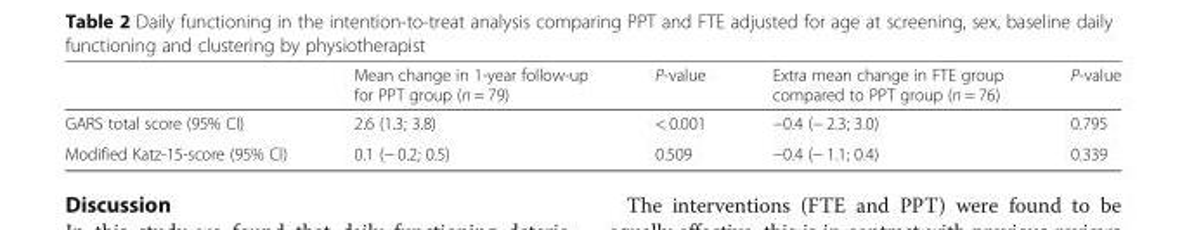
<table><thead><tr><td></td><td>Mean change in 1-year follow-up for PPT group (n = 79)</td><td>P-value</td><td>Extra mean change in FTE group compared to PPT group (n = 76)</td><td>P-value</td></tr></thead><tbody><tr><td>GARS total score (95% CI)</td><td>2.6 (1.3; 3.8)</td><td>&lt; 0.001</td><td>−0.4 (− 2.3; 3.0)</td><td>0.795</td></tr><tr><td>Modified Katz-15-score (95% CI)</td><td>0.1 (− 0.2; 0.5)</td><td>0.509</td><td>−0.4 (− 1.1; 0.4)</td><td>0.339</td></tr></tbody></table>